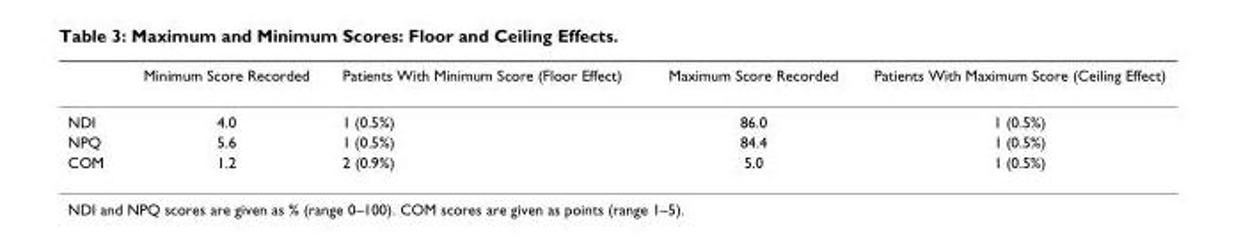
<table><thead><tr><td></td><td>Minimum Score Recorded</td><td>Patients With Minimum Score (Floor Effect)</td><td>Maximum Score Recorded</td><td>Patients With Maximum Score (Ceiling Effect)</td></tr></thead><tbody><tr><td>NDI</td><td>4.0</td><td>1 (0.5%)</td><td>86.0</td><td>1 (0.5%)</td></tr><tr><td>NPQ</td><td>5.6</td><td>1 (0.5%)</td><td>84.4</td><td>1 (0.5%)</td></tr><tr><td>COM</td><td>1.2</td><td>2 (0.9%)</td><td>5.0</td><td>1 (0.5%)</td></tr></tbody></table>